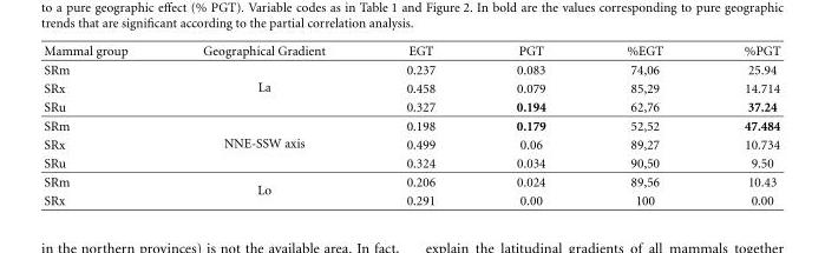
<table><thead><tr><td>Mammal group</td><td>Geographical Gradient</td><td>EGT</td><td>PGT</td><td>%EGT</td><td>%PGT</td></tr></thead><tbody><tr><td>SRm</td><td rowspan="3">La</td><td>0.237</td><td>0.083</td><td>74,06</td><td>25.94</td></tr><tr><td>SRx</td><td>0.458</td><td>0.079</td><td>85,29</td><td>14.714</td></tr><tr><td>SRu</td><td>0.327</td><td>0.194</td><td>62,76</td><td>37.24</td></tr><tr><td>SRm</td><td rowspan="3">NNE-SSW axis</td><td>0.198</td><td>0.179</td><td>52,52</td><td>47.484</td></tr><tr><td>SRx</td><td>0.499</td><td>0.06</td><td>89,27</td><td>10.734</td></tr><tr><td>SRu</td><td>0.324</td><td>0.034</td><td>90,50</td><td>9.50</td></tr><tr><td>SRm</td><td rowspan="2">Lo</td><td>0.206</td><td>0.024</td><td>89,56</td><td>10.43</td></tr><tr><td>SRx</td><td>0.291</td><td>0.00</td><td>100</td><td>0.00</td></tr></tbody></table>